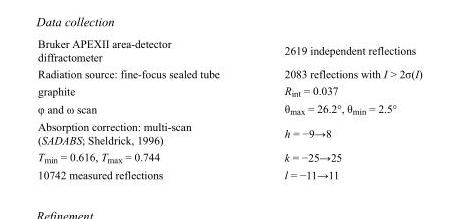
<table><tbody><tr><td>Bruker APEXII area-detector diffractometer</td><td>2619 independent reflections</td></tr><tr><td>Radiation source: fine-focus sealed tube</td><td>2083 reflections with I &gt; 2σ(I)</td></tr><tr><td>graphite</td><td>R<sub>int</sub> = 0.037</td></tr><tr><td>φ and ω scan</td><td>θ<sub>max</sub> = 26.2°, θ<sub>min</sub> = 2.5°</td></tr><tr><td>Absorption correction: multi-scan (SADABS; Sheldrick, 1996)</td><td>h = −9→8</td></tr><tr><td>T<sub>min</sub> = 0.616, T<sub>max</sub> = 0.744</td><td>k = −25→25</td></tr><tr><td>10742 measured reflections</td><td>l = −11→11</td></tr></tbody></table>